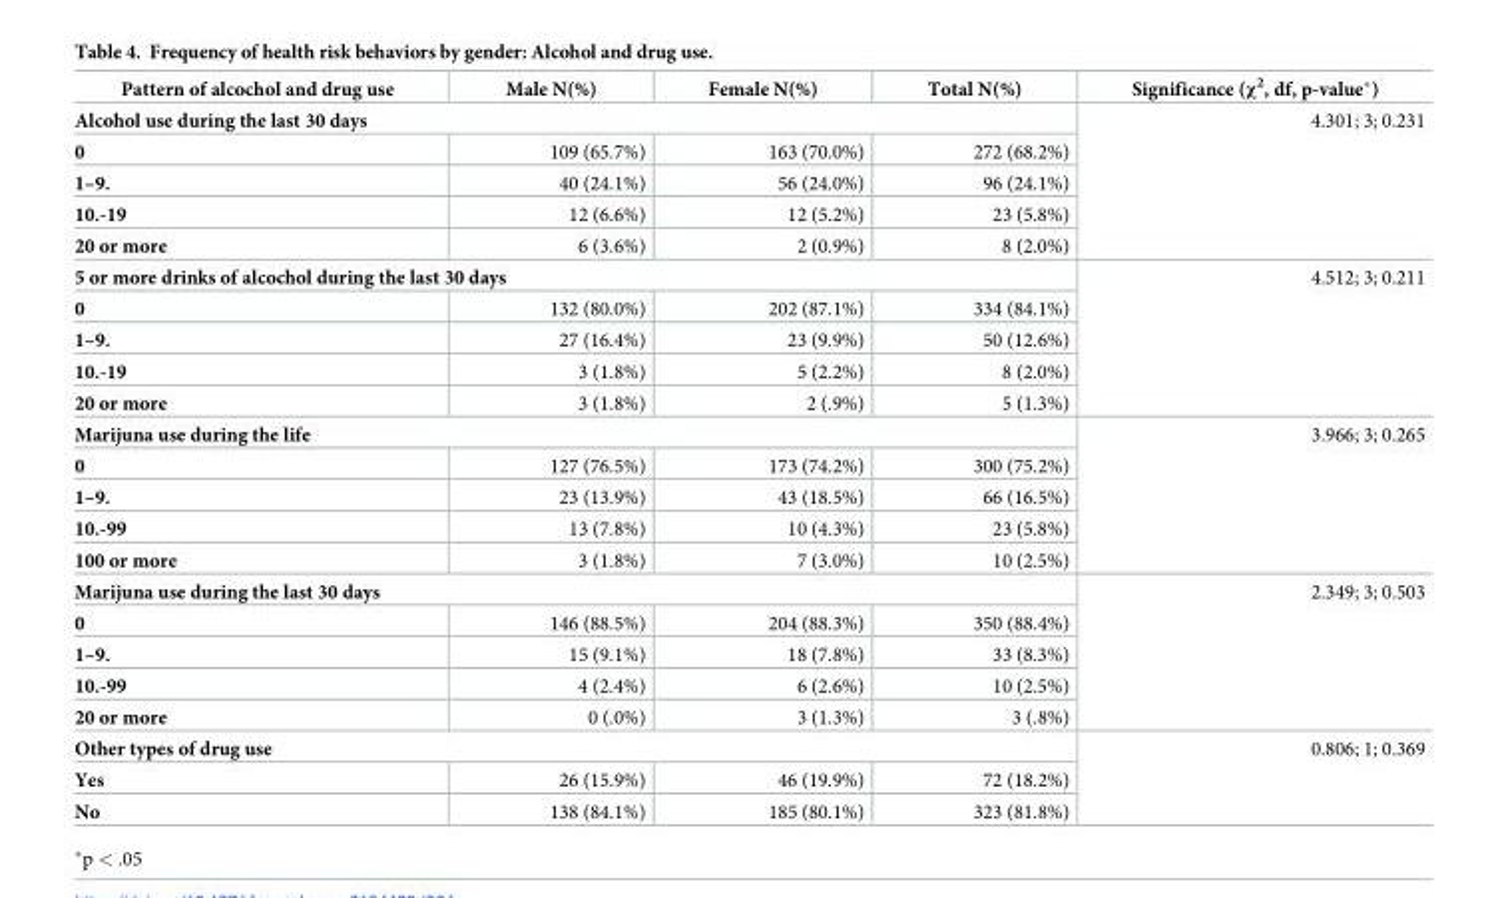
<table><thead><tr><td>Pattern of alcochol and drug use</td><td>Male N(%)</td><td>Female N(%)</td><td>Total N(%)</td><td>Significance (χ<sup>2</sup>, df, p-value*)</td></tr></thead><tbody><tr><td colspan="4">Alcohol use during the last 30 days</td><td rowspan="5">4.301; 3; 0.231</td></tr><tr><td>0</td><td>109 (65.7%)</td><td>163 (70.0%)</td><td>272 (68.2%)</td></tr><tr><td>1–9.</td><td>40 (24.1%)</td><td>56 (24.0%)</td><td>96 (24.1%)</td></tr><tr><td>10.-19</td><td>12 (6.6%)</td><td>12 (5.2%)</td><td>23 (5.8%)</td></tr><tr><td>20 or more</td><td>6 (3.6%)</td><td>2 (0.9%)</td><td>8 (2.0%)</td></tr><tr><td colspan="4">5 or more drinks of alcochol during the last 30 days</td><td rowspan="5">4.512; 3; 0.211</td></tr><tr><td>0</td><td>132 (80.0%)</td><td>202 (87.1%)</td><td>334 (84.1%)</td></tr><tr><td>1–9.</td><td>27 (16.4%)</td><td>23 (9.9%)</td><td>50 (12.6%)</td></tr><tr><td>10.-19</td><td>3 (1.8%)</td><td>5 (2.2%)</td><td>8 (2.0%)</td></tr><tr><td>20 or more</td><td>3 (1.8%)</td><td>2 (.9%)</td><td>5 (1.3%)</td></tr><tr><td colspan="4">Marijuna use during the life</td><td rowspan="5">3.966; 3; 0.265</td></tr><tr><td>0</td><td>127 (76.5%)</td><td>173 (74.2%)</td><td>300 (75.2%)</td></tr><tr><td>1–9.</td><td>23 (13.9%)</td><td>43 (18.5%)</td><td>66 (16.5%)</td></tr><tr><td>10.-99</td><td>13 (7.8%)</td><td>10 (4.3%)</td><td>23 (5.8%)</td></tr><tr><td>100 or more</td><td>3 (1.8%)</td><td>7 (3.0%)</td><td>10 (2.5%)</td></tr><tr><td colspan="4">Marijuna use during the last 30 days</td><td rowspan="5">2.349; 3; 0.503</td></tr><tr><td>0</td><td>146 (88.5%)</td><td>204 (88.3%)</td><td>350 (88.4%)</td></tr><tr><td>1–9.</td><td>15 (9.1%)</td><td>18 (7.8%)</td><td>33 (8.3%)</td></tr><tr><td>10.-99</td><td>4 (2.4%)</td><td>6 (2.6%)</td><td>10 (2.5%)</td></tr><tr><td>20 or more</td><td>0 (.0%)</td><td>3 (1.3%)</td><td>3 (.8%)</td></tr><tr><td colspan="4">Other types of drug use</td><td rowspan="3">0.806; 1; 0.369</td></tr><tr><td>Yes</td><td>26 (15.9%)</td><td>46 (19.9%)</td><td>72 (18.2%)</td></tr><tr><td>No</td><td>138 (84.1%)</td><td>185 (80.1%)</td><td>323 (81.8%)</td></tr></tbody></table>